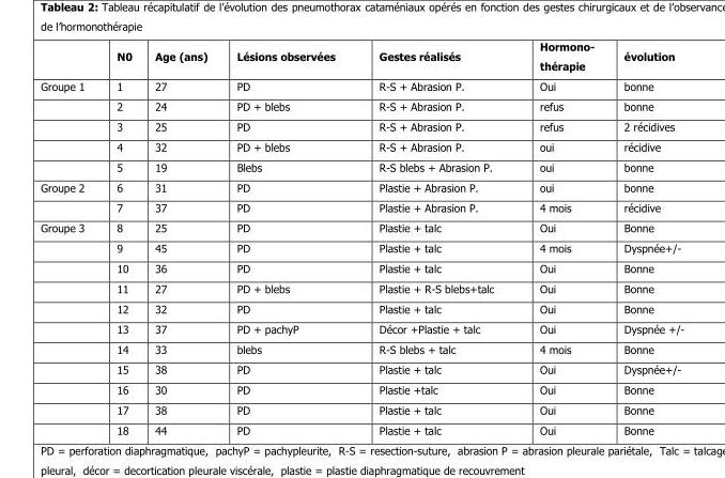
<table><thead><tr><td></td><td>N0</td><td>Age (ans)</td><td>Lésions observées</td><td>Gestes réalisés</td><td>Hormono- thérapie</td><td>évolution</td></tr></thead><tbody><tr><td rowspan="5">Groupe 1</td><td>1</td><td>27</td><td>PD</td><td>R-S + Abrasion P.</td><td>Oui</td><td>bonne</td></tr><tr><td>2</td><td>24</td><td>PD + blebs</td><td>R-S + Abrasion P.</td><td>refus</td><td>bonne</td></tr><tr><td>3</td><td>25</td><td>PD</td><td>R-S + Abrasion P.</td><td>refus</td><td>2 récidives</td></tr><tr><td>4</td><td>32</td><td>PD + blebs</td><td>R-S + Abrasion P.</td><td>oui</td><td>récidive</td></tr><tr><td>5</td><td>19</td><td>Blebs</td><td>R-S blebs + Abrasion P.</td><td>oui</td><td>bonne</td></tr><tr><td rowspan="2">Groupe 2</td><td>6</td><td>31</td><td>PD</td><td>Plastie + Abrasion P.</td><td>oui</td><td>bonne</td></tr><tr><td>7</td><td>37</td><td>PD</td><td>Plastie + Abrasion P.</td><td>4 mois</td><td>récidive</td></tr><tr><td rowspan="11">Groupe 3</td><td>8</td><td>25</td><td>PD</td><td>Plastie + talc</td><td>Oui</td><td>Bonne</td></tr><tr><td>9</td><td>45</td><td>PD</td><td>Plastie + talc</td><td>4 mois</td><td>Dyspnée+/-</td></tr><tr><td>10</td><td>36</td><td>PD</td><td>Plastie + talc</td><td>Oui</td><td>Bonne</td></tr><tr><td>11</td><td>27</td><td>PD + blebs</td><td>Plastie + R-S blebs+talc</td><td>Oui</td><td>Bonne</td></tr><tr><td>12</td><td>32</td><td>PD</td><td>Plastie + talc</td><td>Oui</td><td>Bonne</td></tr><tr><td>13</td><td>37</td><td>PD + pachyP</td><td>Décor +Plastie + talc</td><td>Oui</td><td>Dyspnée +/-</td></tr><tr><td>14</td><td>33</td><td>blebs</td><td>R-S blebs + talc</td><td>4 mois</td><td>Bonne</td></tr><tr><td>15</td><td>38</td><td>PD</td><td>Plastie + talc</td><td>Oui</td><td>Dyspnée+/-</td></tr><tr><td>16</td><td>30</td><td>PD</td><td>Plastie +talc</td><td>Oui</td><td>Bonne</td></tr><tr><td>17</td><td>38</td><td>PD</td><td>Plastie + talc</td><td>Oui</td><td>Bonne</td></tr><tr><td>18</td><td>44</td><td>PD</td><td>Plastie + talc</td><td>Oui</td><td>Bonne</td></tr></tbody></table>